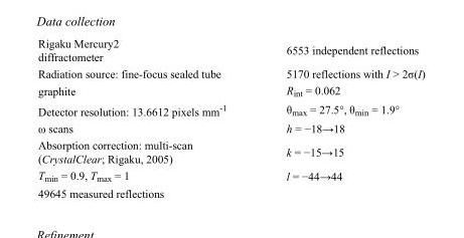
<table><tbody><tr><td>Rigaku Mercury2 diffractometer</td><td>6553 independent reflections</td></tr><tr><td>Radiation source: fine-focus sealed tube</td><td>5170 reflections with I &gt; 2σ(I)</td></tr><tr><td>graphite</td><td>R<sub>int</sub> = 0.062</td></tr><tr><td>Detector resolution: 13.6612 pixels mm<sup>-1</sup></td><td>θ<sub>max</sub> = 27.5°, θ<sub>min</sub> = 1.9°</td></tr><tr><td>ω scans</td><td>h = −18→18</td></tr><tr><td>Absorption correction: multi-scan (CrystalClear; Rigaku, 2005)</td><td>k = −15→15</td></tr><tr><td>T<sub>min</sub> = 0.9, T<sub>max</sub> = 1</td><td>l = −44→44</td></tr><tr><td>49645 measured reflections</td><td></td></tr></tbody></table>